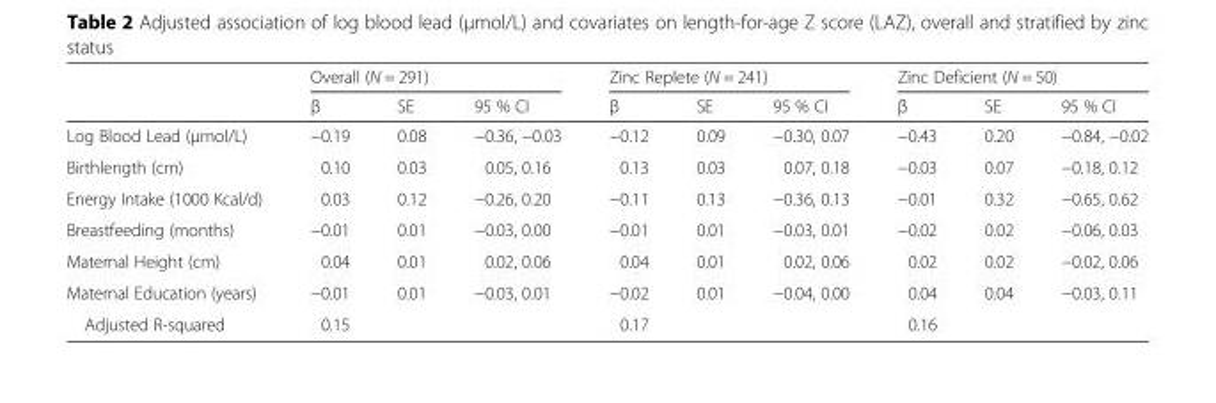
<table><thead><tr><td rowspan="2"></td><td colspan="3">Overall (N = 291)</td><td colspan="3">Zinc Replete (N = 241)</td><td colspan="3">Zinc Deficient (N = 50)</td></tr><tr><td>β</td><td>SE</td><td>95 % CI</td><td>β</td><td>SE</td><td>95 % CI</td><td>β</td><td>SE</td><td>95 % CI</td></tr></thead><tbody><tr><td>Log Blood Lead (μmol/L)</td><td>−0.19</td><td>0.08</td><td>−0.36, −0.03</td><td>−0.12</td><td>0.09</td><td>−0.30, 0.07</td><td>−0.43</td><td>0.20</td><td>−0.84, −0.02</td></tr><tr><td>Birthlength (cm)</td><td>0.10</td><td>0.03</td><td>0.05, 0.16</td><td>0.13</td><td>0.03</td><td>0.07, 0.18</td><td>−0.03</td><td>0.07</td><td>−0.18, 0.12</td></tr><tr><td>Energy Intake (1000 Kcal/d)</td><td>0.03</td><td>0.12</td><td>−0.26, 0.20</td><td>−0.11</td><td>0.13</td><td>−0.36, 0.13</td><td>−0.01</td><td>0.32</td><td>−0.65, 0.62</td></tr><tr><td>Breastfeeding (months)</td><td>−0.01</td><td>0.01</td><td>−0.03, 0.00</td><td>−0.01</td><td>0.01</td><td>−0.03, 0.01</td><td>−0.02</td><td>0.02</td><td>−0.06, 0.03</td></tr><tr><td>Maternal Height (cm)</td><td>0.04</td><td>0.01</td><td>0.02, 0.06</td><td>0.04</td><td>0.01</td><td>0.02, 0.06</td><td>0.02</td><td>0.02</td><td>−0.02, 0.06</td></tr><tr><td>Maternal Education (years)</td><td>−0.01</td><td>0.01</td><td>−0.03, 0.01</td><td>−0.02</td><td>0.01</td><td>−0.04, 0.00</td><td>0.04</td><td>0.04</td><td>−0.03, 0.11</td></tr><tr><td>Adjusted R-squared</td><td>0.15</td><td></td><td></td><td>0.17</td><td></td><td></td><td>0.16</td><td></td><td></td></tr></tbody></table>